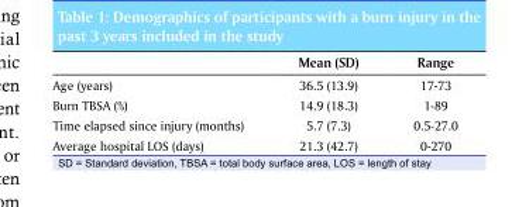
<table><thead><tr><td></td><td>Mean (SD)</td><td>Range</td></tr></thead><tbody><tr><td>Age (years)</td><td>36.5 (13.9)</td><td>17-73</td></tr><tr><td>Burn TBSA (%)</td><td>14.9 (18.3)</td><td>1-89</td></tr><tr><td>Time elapsed since injury (months)</td><td>5.7 (7.3)</td><td>0.5-27.0</td></tr><tr><td>Average hospital LOS (days)</td><td>21.3 (42.7)</td><td>0-270</td></tr></tbody></table>